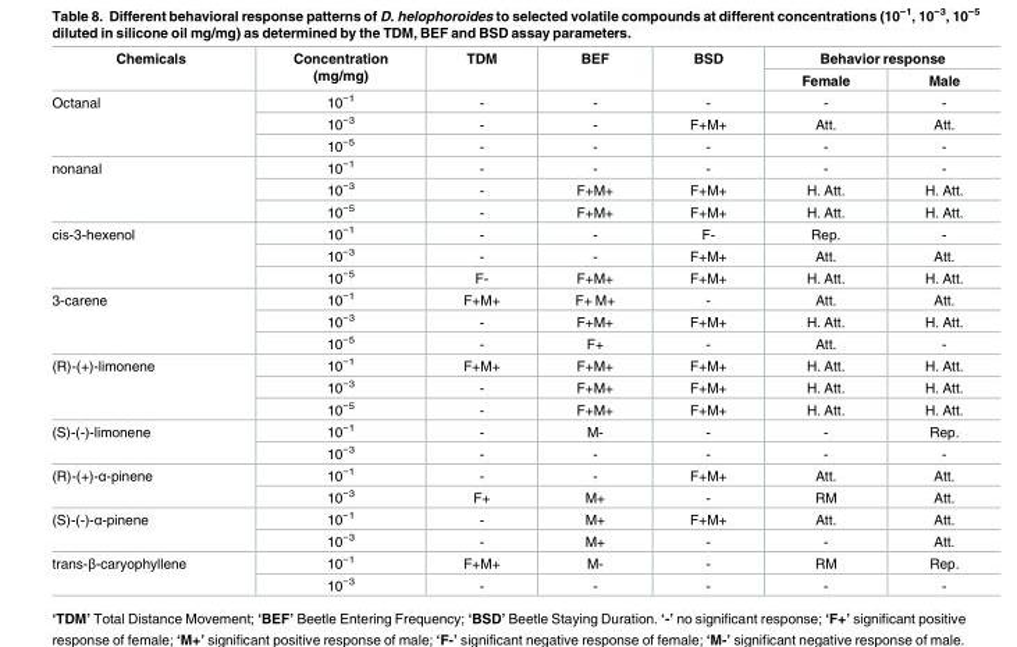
<table><thead><tr><td rowspan="2">Chemicals</td><td rowspan="2">Concentration (mg/mg)</td><td rowspan="2">TDM</td><td rowspan="2">BEF</td><td rowspan="2">BSD</td><td colspan="2">Behavior response</td></tr><tr><td>Female</td><td>Male</td></tr></thead><tbody><tr><td rowspan="3">Octanal</td><td>10<sup>−1</sup></td><td>-</td><td>-</td><td>-</td><td>-</td><td>-</td></tr><tr><td>10<sup>−3</sup></td><td>-</td><td>-</td><td>F+M+</td><td>Att.</td><td>Att.</td></tr><tr><td>10<sup>−5</sup></td><td>-</td><td>-</td><td>-</td><td>-</td><td>-</td></tr><tr><td rowspan="3">nonanal</td><td>10<sup>−1</sup></td><td>-</td><td>-</td><td>-</td><td>-</td><td>-</td></tr><tr><td>10<sup>−3</sup></td><td>-</td><td>F+M+</td><td>F+M+</td><td>H. Att.</td><td>H. Att.</td></tr><tr><td>10<sup>−5</sup></td><td>-</td><td>F+M+</td><td>F+M+</td><td>H. Att.</td><td>H. Att.</td></tr><tr><td rowspan="3">cis-3-hexenol</td><td>10<sup>−1</sup></td><td>-</td><td>-</td><td>F-</td><td>Rep.</td><td>-</td></tr><tr><td>10<sup>−3</sup></td><td>-</td><td>-</td><td>F+M+</td><td>Att.</td><td>Att.</td></tr><tr><td>10<sup>−5</sup></td><td>F-</td><td>F+M+</td><td>F+M+</td><td>H. Att.</td><td>H. Att.</td></tr><tr><td rowspan="3">3-carene</td><td>10<sup>−1</sup></td><td>F+M+</td><td>F+ M+</td><td>-</td><td>Att.</td><td>Att.</td></tr><tr><td>10<sup>−3</sup></td><td>-</td><td>F+M+</td><td>F+M+</td><td>H. Att.</td><td>H. Att.</td></tr><tr><td>10<sup>−5</sup></td><td>-</td><td>F+</td><td>-</td><td>Att.</td><td>-</td></tr><tr><td rowspan="3">(R)-(+)-limonene</td><td>10<sup>−1</sup></td><td>F+M+</td><td>F+M+</td><td>F+M+</td><td>H. Att.</td><td>H. Att.</td></tr><tr><td>10<sup>−3</sup></td><td>-</td><td>F+M+</td><td>F+M+</td><td>H. Att.</td><td>H. Att.</td></tr><tr><td>10<sup>−5</sup></td><td>-</td><td>F+M+</td><td>F+M+</td><td>H. Att.</td><td>H. Att.</td></tr><tr><td rowspan="2">(S)-(-)-limonene</td><td>10<sup>−1</sup></td><td>-</td><td>M-</td><td>-</td><td>-</td><td>Rep.</td></tr><tr><td>10<sup>−3</sup></td><td>-</td><td>-</td><td>-</td><td>-</td><td>-</td></tr><tr><td rowspan="2">(R)-(+)-α-pinene</td><td>10<sup>−1</sup></td><td>-</td><td>-</td><td>F+M+</td><td>Att.</td><td>Att.</td></tr><tr><td>10<sup>−3</sup></td><td>F+</td><td>M+</td><td>-</td><td>RM</td><td>Att.</td></tr><tr><td rowspan="2">(S)-(-)-α-pinene</td><td>10<sup>−1</sup></td><td>-</td><td>M+</td><td>F+M+</td><td>Att.</td><td>Att.</td></tr><tr><td>10<sup>−3</sup></td><td>-</td><td>M+</td><td>-</td><td>-</td><td>Att.</td></tr><tr><td rowspan="2">trans-β-caryophyllene</td><td>10<sup>−1</sup></td><td>F+M+</td><td>M-</td><td>-</td><td>RM</td><td>Rep.</td></tr><tr><td>10<sup>−3</sup></td><td>-</td><td>-</td><td>-</td><td>-</td><td>-</td></tr></tbody></table>